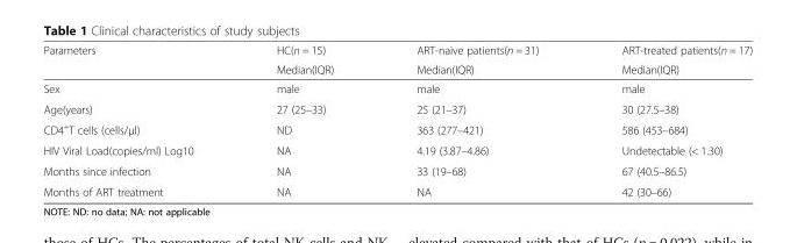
<table><thead><tr><td rowspan="2">Parameters</td><td rowspan="2">HC(n = 15) Median(IQR)</td><td rowspan="2">ART-naive patients(n = 31) Median(IQR)</td><td rowspan="2">ART-treated patients(n = 17) Median(IQR)</td></tr><tr></tr></thead><tbody><tr><td>Sex</td><td>male</td><td>male</td><td>male</td></tr><tr><td>Age(years)</td><td>27 (25–33)</td><td>25 (21–37)</td><td>30 (27.5–38)</td></tr><tr><td>CD4<sup>+</sup>T cells (cells/μl)</td><td>ND</td><td>363 (277–421)</td><td>586 (453–684)</td></tr><tr><td>HIV Viral Load(copies/ml) Log10</td><td>NA</td><td>4.19 (3.87–4.86)</td><td>Undetectable (&lt; 1.30)</td></tr><tr><td>Months since infection</td><td>NA</td><td>33 (19–68)</td><td>67 (40.5–86.5)</td></tr><tr><td>Months of ART treatment</td><td>NA</td><td>NA</td><td>42 (30–66)</td></tr></tbody></table>